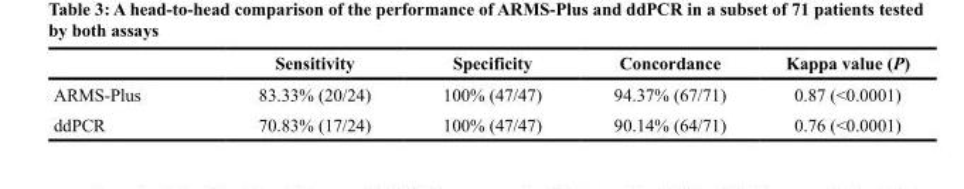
<table><thead><tr><td></td><td>Sensitivity</td><td>Specificity</td><td>Concordance</td><td>Kappa value (P)</td></tr></thead><tbody><tr><td>ARMS-Plus</td><td>83.33% (20/24)</td><td>100% (47/47)</td><td>94.37% (67/71)</td><td>0.87 (&lt;0.0001)</td></tr><tr><td>ddPCR</td><td>70.83% (17/24)</td><td>100% (47/47)</td><td>90.14% (64/71)</td><td>0.76 (&lt;0.0001)</td></tr></tbody></table>